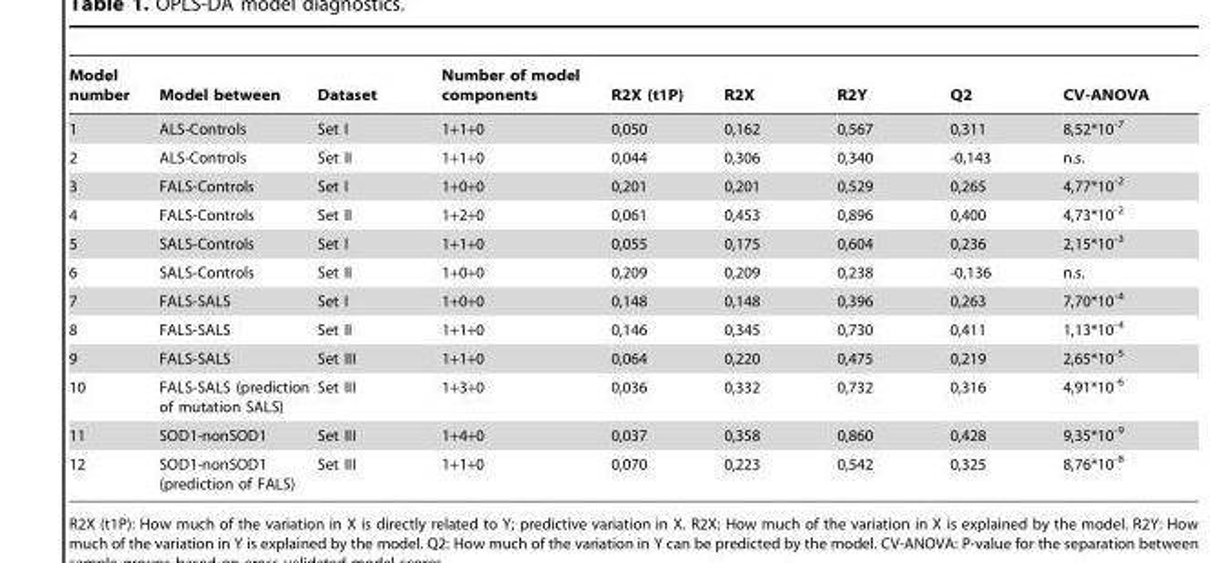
<table><thead><tr><td>Model number</td><td>Model between</td><td>Dataset</td><td>Number of model components</td><td>R2X (t1P)</td><td>R2X</td><td>R2Y</td><td>Q2</td><td>CV-ANOVA</td></tr></thead><tbody><tr><td>1</td><td>ALS-Controls</td><td>Set I</td><td>1+1+0</td><td>0,050</td><td>0,162</td><td>0,567</td><td>0,311</td><td>8,52*10<sup>-7</sup></td></tr><tr><td>2</td><td>ALS-Controls</td><td>Set II</td><td>1+1+0</td><td>0,044</td><td>0,306</td><td>0,340</td><td>-0,143</td><td>n.s.</td></tr><tr><td>3</td><td>FALS-Controls</td><td>Set I</td><td>1+0+0</td><td>0,201</td><td>0,201</td><td>0,529</td><td>0,265</td><td>4,77*10<sup>-2</sup></td></tr><tr><td>4</td><td>FALS-Controls</td><td>Set II</td><td>1+2+0</td><td>0,061</td><td>0,453</td><td>0,896</td><td>0,400</td><td>4,73*10<sup>-2</sup></td></tr><tr><td>5</td><td>SALS-Controls</td><td>Set I</td><td>1+1+0</td><td>0,055</td><td>0,175</td><td>0,604</td><td>0,236</td><td>2,15*10<sup>-3</sup></td></tr><tr><td>6</td><td>SALS-Controls</td><td>Set II</td><td>1+0+0</td><td>0,209</td><td>0,209</td><td>0,238</td><td>-0,136</td><td>n.s.</td></tr><tr><td>7</td><td>FALS-SALS</td><td>Set I</td><td>1+0+0</td><td>0,148</td><td>0,148</td><td>0,396</td><td>0,263</td><td>7,70*10<sup>-4</sup></td></tr><tr><td>8</td><td>FALS-SALS</td><td>Set II</td><td>1+1+0</td><td>0,146</td><td>0,345</td><td>0,730</td><td>0,411</td><td>1,13*10<sup>-4</sup></td></tr><tr><td>9</td><td>FALS-SALS</td><td>Set III</td><td>1+1+0</td><td>0,064</td><td>0,220</td><td>0,475</td><td>0,219</td><td>2,65*10<sup>-5</sup></td></tr><tr><td>10</td><td>FALS-SALS (prediction of mutation SALS)</td><td>Set III</td><td>1+3+0</td><td>0,036</td><td>0,332</td><td>0,732</td><td>0,316</td><td>4,91*10<sup>-6</sup></td></tr><tr><td>11</td><td>SOD1-nonSOD1</td><td>Set III</td><td>1+4+0</td><td>0,037</td><td>0,358</td><td>0,860</td><td>0,428</td><td>9,35*10<sup>-9</sup></td></tr><tr><td>12</td><td>SOD1-nonSOD1 (prediction of FALS)</td><td>Set III</td><td>1+1+0</td><td>0,070</td><td>0,223</td><td>0,542</td><td>0,325</td><td>8,76*10<sup>-8</sup></td></tr></tbody></table>